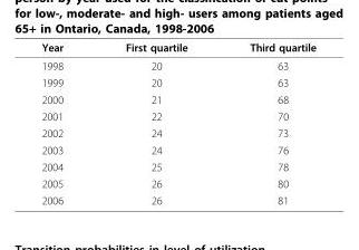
<table><thead><tr><td>Year</td><td>First quartile</td><td>Third quartile</td></tr></thead><tbody><tr><td>1998</td><td>20</td><td>63</td></tr><tr><td>1999</td><td>20</td><td>63</td></tr><tr><td>2000</td><td>21</td><td>68</td></tr><tr><td>2001</td><td>22</td><td>70</td></tr><tr><td>2002</td><td>24</td><td>73</td></tr><tr><td>2003</td><td>24</td><td>76</td></tr><tr><td>2004</td><td>25</td><td>78</td></tr><tr><td>2005</td><td>26</td><td>80</td></tr><tr><td>2006</td><td>26</td><td>81</td></tr></tbody></table>